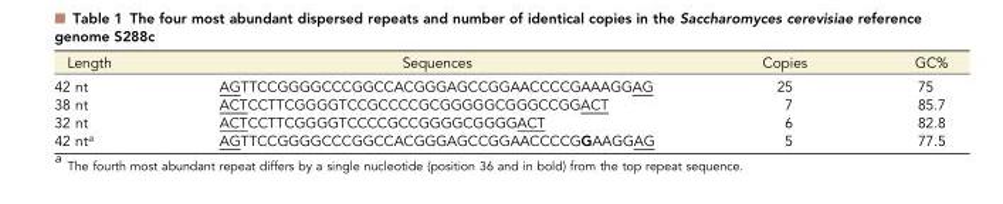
<table><thead><tr><td>Length</td><td>Sequences</td><td>Copies</td><td>GC%</td></tr></thead><tbody><tr><td>42 nt</td><td>AGTTCCGGGGCCCGGCCACGGGAGCCGGAACCCCGAAAGGAG</td><td>25</td><td>75</td></tr><tr><td>38 nt</td><td>ACTCCTTCGGGGTCCGCCCCGCGGGGGCGGGCCGGACT</td><td>7</td><td>85.7</td></tr><tr><td>32 nt</td><td>ACTCCTTCGGGGTCCCCGCCGGGGCGGGGACT</td><td>6</td><td>82.8</td></tr><tr><td>42 nt<sup>a</sup></td><td>AGTTCCGGGGCCCGGCCACGGGAGCCGGAACCCCGGAAGGAG</td><td>5</td><td>77.5</td></tr></tbody></table>